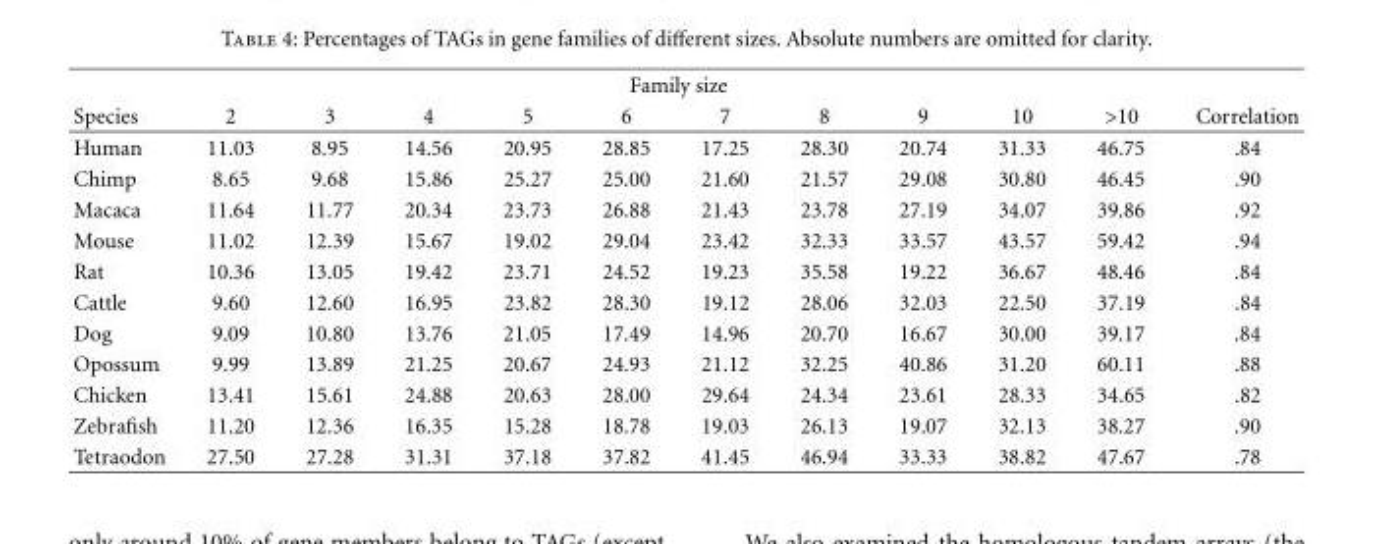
<table><thead><tr><td rowspan="2">Species</td><td colspan="10">Family size</td><td rowspan="2">Correlation</td></tr><tr><td>2</td><td>3</td><td>4</td><td>5</td><td>6</td><td>7</td><td>8</td><td>9</td><td>10</td><td>&gt;10</td></tr></thead><tbody><tr><td>Human</td><td>11.03</td><td>8.95</td><td>14.56</td><td>20.95</td><td>28.85</td><td>17.25</td><td>28.30</td><td>20.74</td><td>31.33</td><td>46.75</td><td>.84</td></tr><tr><td>Chimp</td><td>8.65</td><td>9.68</td><td>15.86</td><td>25.27</td><td>25.00</td><td>21.60</td><td>21.57</td><td>29.08</td><td>30.80</td><td>46.45</td><td>.90</td></tr><tr><td>Macaca</td><td>11.64</td><td>11.77</td><td>20.34</td><td>23.73</td><td>26.88</td><td>21.43</td><td>23.78</td><td>27.19</td><td>34.07</td><td>39.86</td><td>.92</td></tr><tr><td>Mouse</td><td>11.02</td><td>12.39</td><td>15.67</td><td>19.02</td><td>29.04</td><td>23.42</td><td>32.33</td><td>33.57</td><td>43.57</td><td>59.42</td><td>.94</td></tr><tr><td>Rat</td><td>10.36</td><td>13.05</td><td>19.42</td><td>23.71</td><td>24.52</td><td>19.23</td><td>35.58</td><td>19.22</td><td>36.67</td><td>48.46</td><td>.84</td></tr><tr><td>Cattle</td><td>9.60</td><td>12.60</td><td>16.95</td><td>23.82</td><td>28.30</td><td>19.12</td><td>28.06</td><td>32.03</td><td>22.50</td><td>37.19</td><td>.84</td></tr><tr><td>Dog</td><td>9.09</td><td>10.80</td><td>13.76</td><td>21.05</td><td>17.49</td><td>14.96</td><td>20.70</td><td>16.67</td><td>30.00</td><td>39.17</td><td>.84</td></tr><tr><td>Opossum</td><td>9.99</td><td>13.89</td><td>21.25</td><td>20.67</td><td>24.93</td><td>21.12</td><td>32.25</td><td>40.86</td><td>31.20</td><td>60.11</td><td>.88</td></tr><tr><td>Chicken</td><td>13.41</td><td>15.61</td><td>24.88</td><td>20.63</td><td>28.00</td><td>29.64</td><td>24.34</td><td>23.61</td><td>28.33</td><td>34.65</td><td>.82</td></tr><tr><td>Zebrafish</td><td>11.20</td><td>12.36</td><td>16.35</td><td>15.28</td><td>18.78</td><td>19.03</td><td>26.13</td><td>19.07</td><td>32.13</td><td>38.27</td><td>.90</td></tr><tr><td>Tetraodon</td><td>27.50</td><td>27.28</td><td>31.31</td><td>37.18</td><td>37.82</td><td>41.45</td><td>46.94</td><td>33.33</td><td>38.82</td><td>47.67</td><td>.78</td></tr></tbody></table>